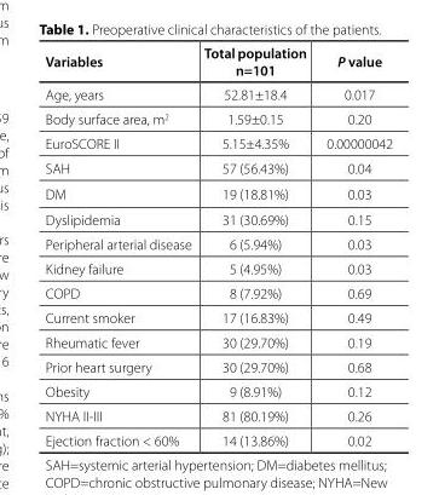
<table><thead><tr><td>Variables</td><td>Total population n=101</td><td>P value</td></tr></thead><tbody><tr><td>Age, years</td><td>52.81±18.4</td><td>0.017</td></tr><tr><td>Body surface area, m<sup>2</sup></td><td>1.59±0.15</td><td>0.20</td></tr><tr><td>EuroSCORE II</td><td>5.15±4.35%</td><td>0.00000042</td></tr><tr><td>SAH</td><td>57 (56.43%)</td><td>0.04</td></tr><tr><td>DM</td><td>19 (18.81%)</td><td>0.03</td></tr><tr><td>Dyslipidemia</td><td>31 (30.69%)</td><td>0.15</td></tr><tr><td>Peripheral arterial disease</td><td>6 (5.94%)</td><td>0.03</td></tr><tr><td>Kidney failure</td><td>5 (4.95%)</td><td>0.03</td></tr><tr><td>COPD</td><td>8 (7.92%)</td><td>0.69</td></tr><tr><td>Current smoker</td><td>17 (16.83%)</td><td>0.49</td></tr><tr><td>Rheumatic fever</td><td>30 (29.70%)</td><td>0.19</td></tr><tr><td>Prior heart surgery</td><td>30 (29.70%)</td><td>0.68</td></tr><tr><td>Obesity</td><td>9 (8.91%)</td><td>0.12</td></tr><tr><td>NYHA II-III</td><td>81 (80.19%)</td><td>0.26</td></tr><tr><td>Ejection fraction &lt; 60%</td><td>14 (13.86%)</td><td>0.02</td></tr></tbody></table>